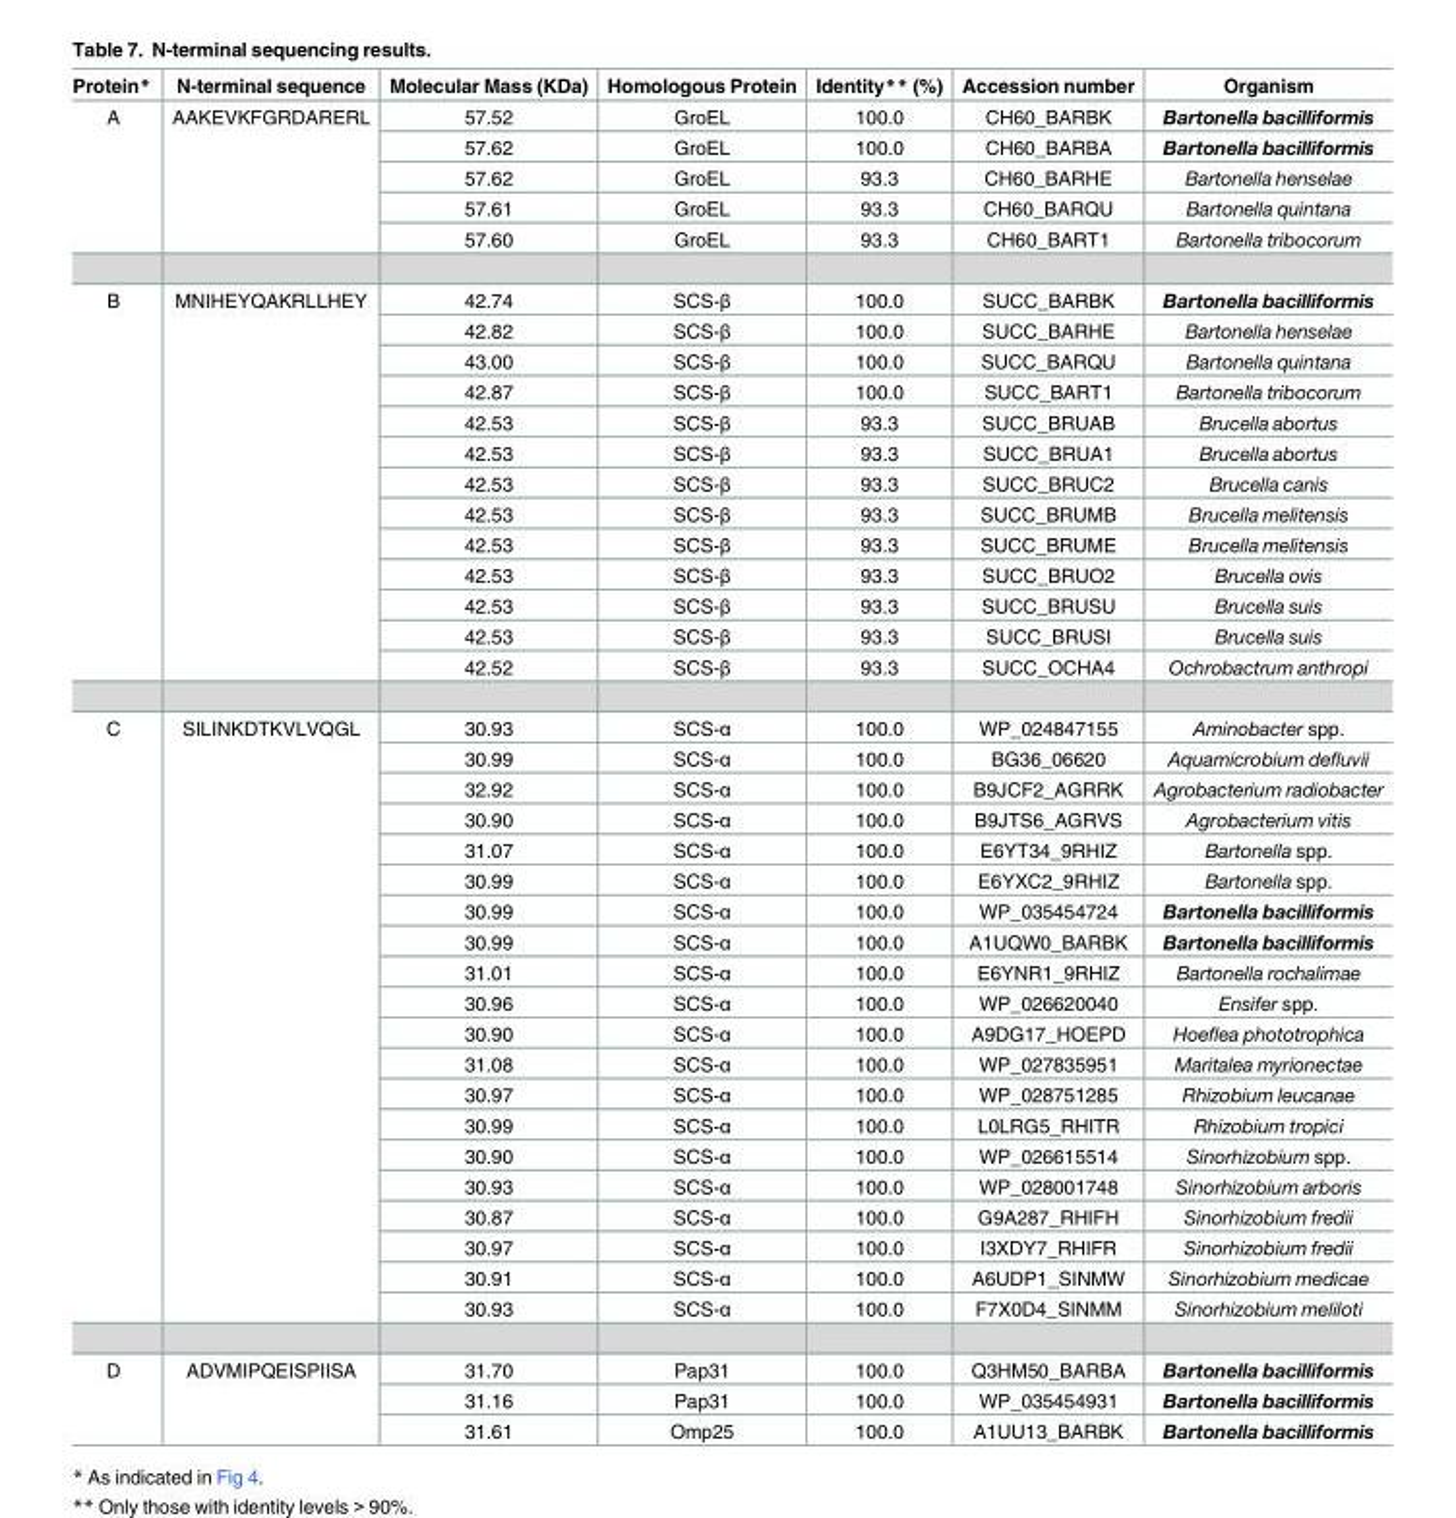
<table><thead><tr><td>Protein*</td><td>N-terminal sequence</td><td>Molecular Mass (KDa)</td><td>Homologous Protein</td><td>Identity** (%)</td><td>Accession number</td><td>Organism</td></tr></thead><tbody><tr><td rowspan="5">A</td><td rowspan="5">AAKEVKFGRDARERL</td><td>57.52</td><td>GroEL</td><td>100.0</td><td>CH60_BARBK</td><td>Bartonella bacilliformis</td></tr><tr><td>57.62</td><td>GroEL</td><td>100.0</td><td>CH60_BARBA</td><td>Bartonella bacilliformis</td></tr><tr><td>57.62</td><td>GroEL</td><td>93.3</td><td>CH60_BARHE</td><td>Bartonella henselae</td></tr><tr><td>57.61</td><td>GroEL</td><td>93.3</td><td>CH60_BARQU</td><td>Bartonella quintana</td></tr><tr><td>57.60</td><td>GroEL</td><td>93.3</td><td>CH60_BART1</td><td>Bartonella tribocorum</td></tr><tr><td rowspan="13">B</td><td rowspan="13">MNIHEYQAKRLLHEY</td><td>42.74</td><td>SCS-β</td><td>100.0</td><td>SUCC_BARBK</td><td>Bartonella bacilliformis</td></tr><tr><td>42.82</td><td>SCS-β</td><td>100.0</td><td>SUCC_BARHE</td><td>Bartonella henselae</td></tr><tr><td>43.00</td><td>SCS-β</td><td>100.0</td><td>SUCC_BARQU</td><td>Bartonella quintana</td></tr><tr><td>42.87</td><td>SCS-β</td><td>100.0</td><td>SUCC_BART1</td><td>Bartonella tribocorum</td></tr><tr><td>42.53</td><td>SCS-β</td><td>93.3</td><td>SUCC_BRUAB</td><td>Brucella abortus</td></tr><tr><td>42.53</td><td>SCS-β</td><td>93.3</td><td>SUCC_BRUA1</td><td>Brucella abortus</td></tr><tr><td>42.53</td><td>SCS-β</td><td>93.3</td><td>SUCC_BRUC2</td><td>Brucella canis</td></tr><tr><td>42.53</td><td>SCS-β</td><td>93.3</td><td>SUCC_BRUMB</td><td>Brucella melitensis</td></tr><tr><td>42.53</td><td>SCS-β</td><td>93.3</td><td>SUCC_BRUME</td><td>Brucella melitensis</td></tr><tr><td>42.53</td><td>SCS-β</td><td>93.3</td><td>SUCC_BRUO2</td><td>Brucella ovis</td></tr><tr><td>42.53</td><td>SCS-β</td><td>93.3</td><td>SUCC_BRUSU</td><td>Brucella suis</td></tr><tr><td>42.53</td><td>SCS-β</td><td>93.3</td><td>SUCC_BRUSI</td><td>Brucella suis</td></tr><tr><td>42.52</td><td>SCS-β</td><td>93.3</td><td>SUCC_OCHA4</td><td>Ochrobactrum anthropi</td></tr><tr><td rowspan="20">C</td><td rowspan="20">SILINKDTKVLVQGL</td><td>30.93</td><td>SCS-α</td><td>100.0</td><td>WP_024847155</td><td>Aminobacter spp.</td></tr><tr><td>30.99</td><td>SCS-α</td><td>100.0</td><td>BG36_06620</td><td>Aquamicrobium defluvii</td></tr><tr><td>32.92</td><td>SCS-α</td><td>100.0</td><td>B9JCF2_AGRRK</td><td>Agrobacterium radiobacter</td></tr><tr><td>30.90</td><td>SCS-α</td><td>100.0</td><td>B9JTS6_AGRVS</td><td>Agrobacterium vitis</td></tr><tr><td>31.07</td><td>SCS-α</td><td>100.0</td><td>E6YT34_9RHIZ</td><td>Bartonella spp.</td></tr><tr><td>30.99</td><td>SCS-α</td><td>100.0</td><td>E6YXC2_9RHIZ</td><td>Bartonella spp.</td></tr><tr><td>30.99</td><td>SCS-α</td><td>100.0</td><td>WP_035454724</td><td>Bartonella bacilliformis</td></tr><tr><td>30.99</td><td>SCS-α</td><td>100.0</td><td>A1UQW0_BARBK</td><td>Bartonella bacilliformis</td></tr><tr><td>31.01</td><td>SCS-α</td><td>100.0</td><td>E6YNR1_9RHIZ</td><td>Bartonella rochalimae</td></tr><tr><td>30.96</td><td>SCS-α</td><td>100.0</td><td>WP_026620040</td><td>Ensifer spp.</td></tr><tr><td>30.90</td><td>SCS-α</td><td>100.0</td><td>A9DG17_HOEPD</td><td>Hoeflea phototrophica</td></tr><tr><td>31.08</td><td>SCS-α</td><td>100.0</td><td>WP_027835951</td><td>Maritalea myrionectae</td></tr><tr><td>30.97</td><td>SCS-α</td><td>100.0</td><td>WP_028751285</td><td>Rhizobium leucanae</td></tr><tr><td>30.99</td><td>SCS-α</td><td>100.0</td><td>L0LRG5_RHITR</td><td>Rhizobium tropici</td></tr><tr><td>30.90</td><td>SCS-α</td><td>100.0</td><td>WP_026615514</td><td>Sinorhizobium spp.</td></tr><tr><td>30.93</td><td>SCS-α</td><td>100.0</td><td>WP_028001748</td><td>Sinorhizobium arboris</td></tr><tr><td>30.87</td><td>SCS-α</td><td>100.0</td><td>G9A287_RHIFH</td><td>Sinorhizobium fredii</td></tr><tr><td>30.97</td><td>SCS-α</td><td>100.0</td><td>I3XDY7_RHIFR</td><td>Sinorhizobium fredii</td></tr><tr><td>30.91</td><td>SCS-α</td><td>100.0</td><td>A6UDP1_SINMW</td><td>Sinorhizobium medicae</td></tr><tr><td>30.93</td><td>SCS-α</td><td>100.0</td><td>F7X0D4_SINMM</td><td>Sinorhizobium meliloti</td></tr><tr><td rowspan="3">D</td><td rowspan="3">ADVMIPQEISPIISA</td><td>31.70</td><td>Pap31</td><td>100.0</td><td>Q3HM50_BARBA</td><td>Bartonella bacilliformis</td></tr><tr><td>31.16</td><td>Pap31</td><td>100.0</td><td>WP_035454931</td><td>Bartonella bacilliformis</td></tr><tr><td>31.61</td><td>Omp25</td><td>100.0</td><td>A1UU13_BARBK</td><td>Bartonella bacilliformis</td></tr></tbody></table>